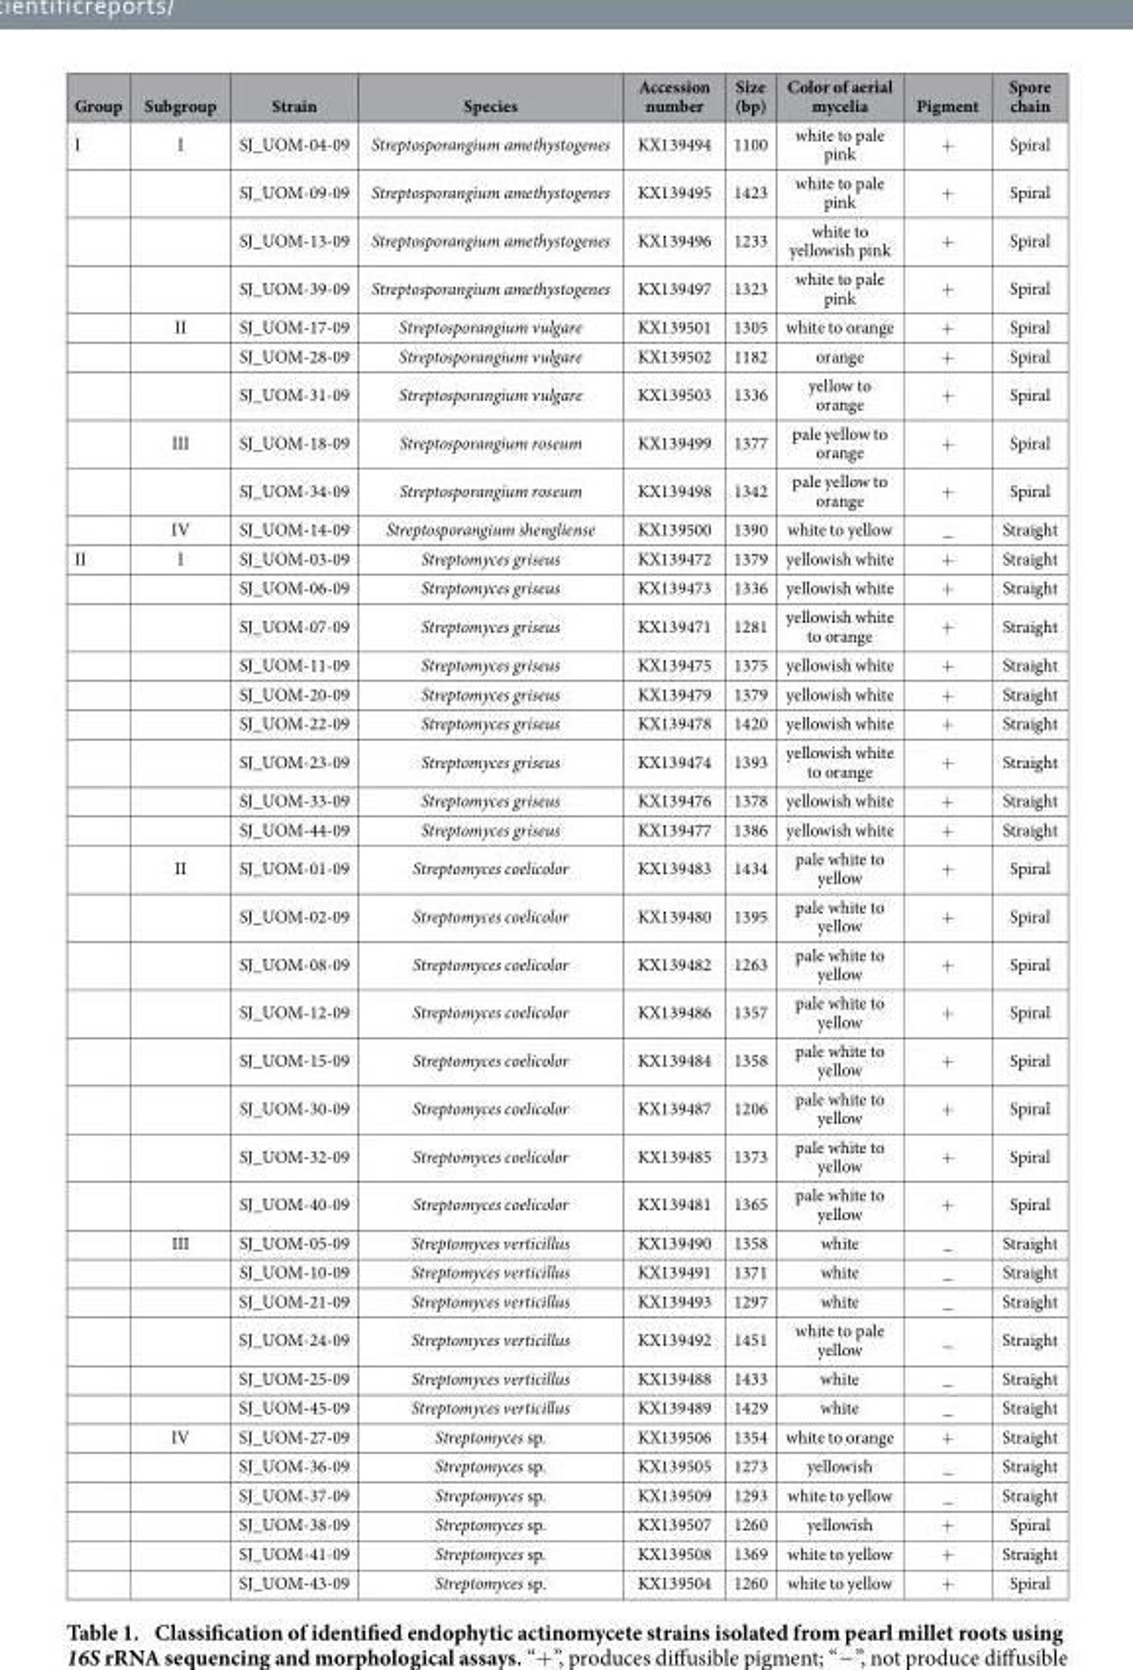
<table><thead><tr><td>Group</td><td>Subgroup</td><td>Strain</td><td>Species</td><td>Accession number</td><td>Size (bp)</td><td>Color of aerial mycelia</td><td>Pigment</td><td>Spore chain</td></tr></thead><tbody><tr><td rowspan="10">I</td><td>I</td><td>SJ_UOM-04-09</td><td>Streptosporangium amethystogenes</td><td>KX139494</td><td>1100</td><td>white to pale pink</td><td>+</td><td>Spiral</td></tr><tr><td></td><td>SJ_UOM-09-09</td><td>Streptosporangium amethystogenes</td><td>KX139495</td><td>1423</td><td>white to pale pink</td><td>+</td><td>Spiral</td></tr><tr><td></td><td>SJ_UOM-13-09</td><td>Streptosporangium amethystogenes</td><td>KX139496</td><td>1233</td><td>white to yellowish pink</td><td>+</td><td>Spiral</td></tr><tr><td></td><td>SJ_UOM-39-09</td><td>Streptosporangium amethystogenes</td><td>KX139497</td><td>1323</td><td>white to pale pink</td><td>+</td><td>Spiral</td></tr><tr><td>II</td><td>SJ_UOM-17-09</td><td>Streptosporangium vulgare</td><td>KX139501</td><td>1305</td><td>white to orange</td><td>+</td><td>Spiral</td></tr><tr><td></td><td>SJ_UOM-28-09</td><td>Streptosporangium vulgare</td><td>KX139502</td><td>1182</td><td>orange</td><td>+</td><td>Spiral</td></tr><tr><td></td><td>SJ_UOM-31-09</td><td>Streptosporangium vulgare</td><td>KX139503</td><td>1336</td><td>yellow to orange</td><td>+</td><td>Spiral</td></tr><tr><td>III</td><td>SJ_UOM-18-09</td><td>Streptosporangium roseum</td><td>KX139499</td><td>1377</td><td>pale yellow to orange</td><td>+</td><td>Spiral</td></tr><tr><td></td><td>SJ_UOM-34-09</td><td>Streptosporangium roseum</td><td>KX139498</td><td>1342</td><td>pale yellow to orange</td><td>+</td><td>Spiral</td></tr><tr><td>IV</td><td>SJ_UOM-14-09</td><td>Streptosporangium shengliense</td><td>KX139500</td><td>1390</td><td>white to yellow</td><td>_</td><td>Straight</td></tr><tr><td rowspan="29">II</td><td>I</td><td>SJ_UOM-03-09</td><td>Streptomyces griseus</td><td>KX139472</td><td>1379</td><td>yellowish white</td><td>+</td><td>Straight</td></tr><tr><td></td><td>SJ_UOM-06-09</td><td>Streptomyces griseus</td><td>KX139473</td><td>1336</td><td>yellowish white</td><td>+</td><td>Straight</td></tr><tr><td></td><td>SJ_UOM-07-09</td><td>Streptomyces griseus</td><td>KX139471</td><td>1281</td><td>yellowish white to orange</td><td>+</td><td>Straight</td></tr><tr><td></td><td>SJ_UOM-11-09</td><td>Streptomyces griseus</td><td>KX139475</td><td>1375</td><td>yellowish white</td><td>+</td><td>Straight</td></tr><tr><td></td><td>SJ_UOM-20-09</td><td>Streptomyces griseus</td><td>KX139479</td><td>1379</td><td>yellowish white</td><td>+</td><td>Straight</td></tr><tr><td></td><td>SJ_UOM-22-09</td><td>Streptomyces griseus</td><td>KX139478</td><td>1420</td><td>yellowish white</td><td>+</td><td>Straight</td></tr><tr><td></td><td>SJ_UOM-23-09</td><td>Streptomyces griseus</td><td>KX139474</td><td>1393</td><td>yellowish white to orange</td><td>+</td><td>Straight</td></tr><tr><td></td><td>SJ_UOM-33-09</td><td>Streptomyces griseus</td><td>KX139476</td><td>1378</td><td>yellowish white</td><td>+</td><td>Straight</td></tr><tr><td></td><td>SJ_UOM-44-09</td><td>Streptomyces griseus</td><td>KX139477</td><td>1386</td><td>yellowish white</td><td>+</td><td>Straight</td></tr><tr><td>II</td><td>SJ_UOM-01-09</td><td>Streptomyces coelicolor</td><td>KX139483</td><td>1434</td><td>pale white to yellow</td><td>+</td><td>Spiral</td></tr><tr><td></td><td>SJ_UOM-02-09</td><td>Streptomyces coelicolor</td><td>KX139480</td><td>1395</td><td>pale white to yellow</td><td>+</td><td>Spiral</td></tr><tr><td></td><td>SJ_UOM-08-09</td><td>Streptomyces coelicolor</td><td>KX139482</td><td>1263</td><td>pale white to yellow</td><td>+</td><td>Spiral</td></tr><tr><td></td><td>SJ_UOM-12-09</td><td>Streptomyces coelicolor</td><td>KX139486</td><td>1357</td><td>pale white to yellow</td><td>+</td><td>Spiral</td></tr><tr><td></td><td>SJ_UOM-15-09</td><td>Streptomyces coelicolor</td><td>KX139484</td><td>1358</td><td>pale white to yellow</td><td>+</td><td>Spiral</td></tr><tr><td></td><td>SJ_UOM-30-09</td><td>Streptomyces coelicolor</td><td>KX139487</td><td>1206</td><td>pale white to yellow</td><td>+</td><td>Spiral</td></tr><tr><td></td><td>SJ_UOM-32-09</td><td>Streptomyces coelicolor</td><td>KX139485</td><td>1373</td><td>pale white to yellow</td><td>+</td><td>Spiral</td></tr><tr><td></td><td>SJ_UOM-40-09</td><td>Streptomyces coelicolor</td><td>KX139481</td><td>1365</td><td>pale white to yellow</td><td>+</td><td>Spiral</td></tr><tr><td>III</td><td>SJ_UOM-05-09</td><td>Streptomyces verticillus</td><td>KX139490</td><td>1358</td><td>white</td><td>_</td><td>Straight</td></tr><tr><td></td><td>SJ_UOM-10-09</td><td>Streptomyces verticillus</td><td>KX139491</td><td>1371</td><td>white</td><td>_</td><td>Straight</td></tr><tr><td></td><td>SJ_UOM-21-09</td><td>Streptomyces verticillus</td><td>KX139493</td><td>1297</td><td>white</td><td>_</td><td>Straight</td></tr><tr><td></td><td>SJ_UOM-24-09</td><td>Streptomyces verticillus</td><td>KX139492</td><td>1451</td><td>white to pale yellow</td><td>_</td><td>Straight</td></tr><tr><td></td><td>SJ_UOM-25-09</td><td>Streptomyces verticillus</td><td>KX139488</td><td>1433</td><td>white</td><td>_</td><td>Straight</td></tr><tr><td></td><td>SJ_UOM-45-09</td><td>Streptomyces verticillus</td><td>KX139489</td><td>1429</td><td>white</td><td>_</td><td>Straight</td></tr><tr><td>IV</td><td>SJ_UOM-27-09</td><td>Streptomyces sp.</td><td>KX139506</td><td>1354</td><td>white to orange</td><td>+</td><td>Straight</td></tr><tr><td></td><td>SJ_UOM-36-09</td><td>Streptomyces sp.</td><td>KX139505</td><td>1273</td><td>yellowish</td><td>_</td><td>Straight</td></tr><tr><td></td><td>SJ_UOM-37-09</td><td>Streptomyces sp.</td><td>KX139509</td><td>1293</td><td>white to yellow</td><td>_</td><td>Straight</td></tr><tr><td></td><td>SJ_UOM-38-09</td><td>Streptomyces sp.</td><td>KX139507</td><td>1260</td><td>yellowish</td><td>+</td><td>Spiral</td></tr><tr><td></td><td>SJ_UOM-41-09</td><td>Streptomyces sp.</td><td>KX139508</td><td>1369</td><td>white to yellow</td><td>+</td><td>Straight</td></tr><tr><td></td><td>SJ_UOM-43-09</td><td>Streptomyces sp.</td><td>KX139504</td><td>1260</td><td>white to yellow</td><td>+</td><td>Spiral</td></tr></tbody></table>